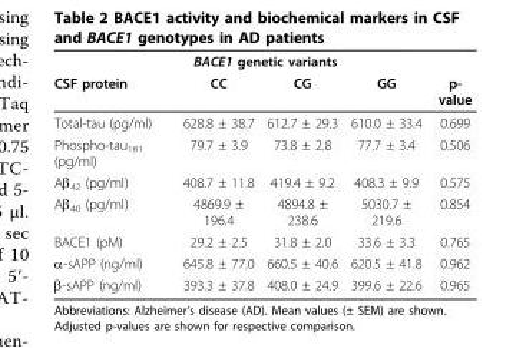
<table><thead><tr><td colspan="5">BACE1 genetic variants</td></tr><tr><td>CSF protein</td><td>CC</td><td>CG</td><td>GG</td><td>p- value</td></tr></thead><tbody><tr><td>Total-tau (pg/ml)</td><td>628.8 ± 38.7</td><td>612.7 ± 29.3</td><td>610.0 ± 33.4</td><td>0.699</td></tr><tr><td>Phospho-tau<sub>181</sub> (pg/ml)</td><td>79.7 ± 3.9</td><td>73.8 ± 2.8</td><td>77.7 ± 3.4</td><td>0.506</td></tr><tr><td>Aβ<sub>42</sub> (pg/ml)</td><td>408.7 ± 11.8</td><td>419.4 ± 9.2</td><td>408.3 ± 9.9</td><td>0.575</td></tr><tr><td>Aβ<sub>40</sub> (pg/ml)</td><td>4869.9 ± 196.4</td><td>4894.8 ± 238.6</td><td>5030.7 ± 219.6</td><td>0.854</td></tr><tr><td>BACE1 (pM)</td><td>29.2 ± 2.5</td><td>31.8 ± 2.0</td><td>33.6 ± 3.3</td><td>0.765</td></tr><tr><td>α-sAPP (ng/ml)</td><td>645.8 ± 77.0</td><td>660.5 ± 40.6</td><td>620.5 ± 41.8</td><td>0.962</td></tr><tr><td>β-sAPP (ng/ml)</td><td>393.3 ± 37.8</td><td>408.0 ± 24.9</td><td>399.6 ± 22.6</td><td>0.965</td></tr></tbody></table>